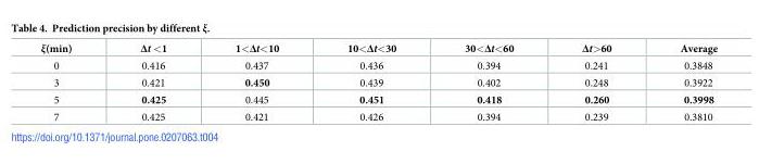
<table><thead><tr><td>ξ(min)</td><td>Δt &lt;1</td><td>1&lt;Δt&lt;10</td><td>10&lt;Δt&lt;30</td><td>30&lt;Δt&lt;60</td><td>Δt&gt;60</td><td>Average</td></tr></thead><tbody><tr><td>0</td><td>0.416</td><td>0.437</td><td>0.436</td><td>0.394</td><td>0.241</td><td>0.3848</td></tr><tr><td>3</td><td>0.421</td><td>0.450</td><td>0.439</td><td>0.402</td><td>0.248</td><td>0.3922</td></tr><tr><td>5</td><td>0.425</td><td>0.445</td><td>0.451</td><td>0.418</td><td>0.260</td><td>0.3998</td></tr><tr><td>7</td><td>0.425</td><td>0.421</td><td>0.426</td><td>0.394</td><td>0.239</td><td>0.3810</td></tr></tbody></table>